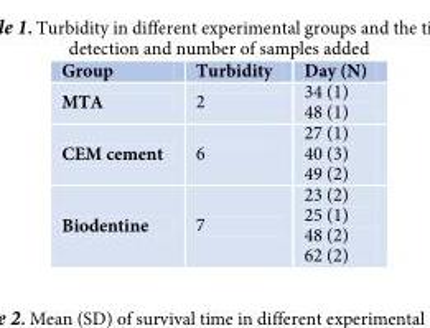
<table><thead><tr><td>Group</td><td>Turbidity</td><td>Day (N)</td></tr></thead><tbody><tr><td>MTA</td><td>2</td><td>34 (1) 48 (1)</td></tr><tr><td>CEM cement</td><td>6</td><td>27 (1) 40 (3) 49 (2)</td></tr><tr><td>Biodentine</td><td>7</td><td>23 (2) 25 (1) 48 (2) 62 (2)</td></tr></tbody></table>